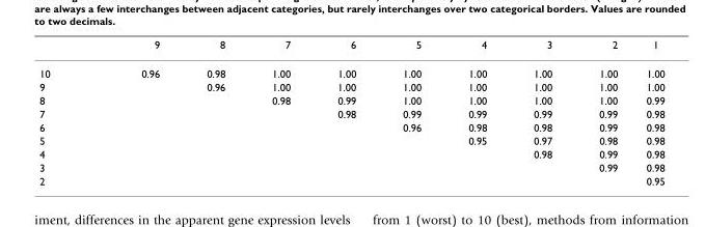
<table><thead><tr><td></td><td>9</td><td>8</td><td>7</td><td>6</td><td>5</td><td>4</td><td>3</td><td>2</td><td>1</td></tr></thead><tbody><tr><td>10</td><td>0.96</td><td>0.98</td><td>1.00</td><td>1.00</td><td>1.00</td><td>1.00</td><td>1.00</td><td>1.00</td><td>1.00</td></tr><tr><td>9</td><td></td><td>0.96</td><td>1.00</td><td>1.00</td><td>1.00</td><td>1.00</td><td>1.00</td><td>1.00</td><td>1.00</td></tr><tr><td>8</td><td></td><td></td><td>0.98</td><td>0.99</td><td>1.00</td><td>1.00</td><td>1.00</td><td>1.00</td><td>0.99</td></tr><tr><td>7</td><td></td><td></td><td></td><td>0.98</td><td>0.99</td><td>0.99</td><td>0.99</td><td>0.99</td><td>0.98</td></tr><tr><td>6</td><td></td><td></td><td></td><td></td><td>0.96</td><td>0.98</td><td>0.98</td><td>0.99</td><td>0.98</td></tr><tr><td>5</td><td></td><td></td><td></td><td></td><td></td><td>0.95</td><td>0.97</td><td>0.98</td><td>0.98</td></tr><tr><td>4</td><td></td><td></td><td></td><td></td><td></td><td></td><td>0.98</td><td>0.99</td><td>0.98</td></tr><tr><td>3</td><td></td><td></td><td></td><td></td><td></td><td></td><td></td><td>0.99</td><td>0.98</td></tr><tr><td>2</td><td></td><td></td><td></td><td></td><td></td><td></td><td></td><td></td><td>0.95</td></tr></tbody></table>